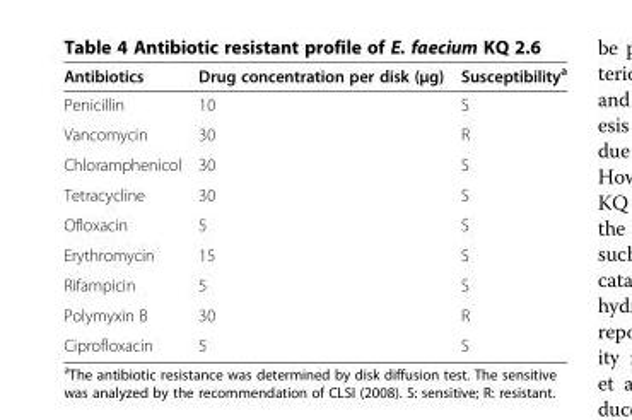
<table><thead><tr><td>Antibiotics</td><td>Drug concentration per disk (μg)</td><td>Susceptibility<sup>a</sup></td></tr></thead><tbody><tr><td>Penicillin</td><td>10</td><td>S</td></tr><tr><td>Vancomycin</td><td>30</td><td>R</td></tr><tr><td>Chloramphenicol</td><td>30</td><td>S</td></tr><tr><td>Tetracycline</td><td>30</td><td>S</td></tr><tr><td>Ofloxacin</td><td>5</td><td>S</td></tr><tr><td>Erythromycin</td><td>15</td><td>S</td></tr><tr><td>Rifampicin</td><td>5</td><td>S</td></tr><tr><td>Polymyxin B</td><td>30</td><td>R</td></tr><tr><td>Ciprofloxacin</td><td>5</td><td>S</td></tr></tbody></table>